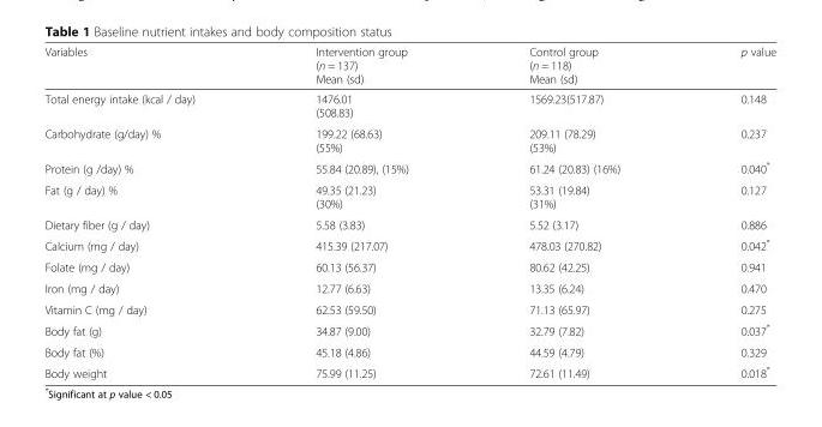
<table><thead><tr><td>Variables</td><td>Intervention group (n = 137) Mean (sd)</td><td>Control group (n = 118) Mean (sd)</td><td>p value</td></tr></thead><tbody><tr><td>Total energy intake (kcal / day)</td><td>1476.01 (508.83)</td><td>1569.23(517.87)</td><td>0.148</td></tr><tr><td>Carbohydrate (g/day) %</td><td>199.22 (68.63) (55%)</td><td>209.11 (78.29) (53%)</td><td>0.237</td></tr><tr><td>Protein (g /day) %</td><td>55.84 (20.89), (15%)</td><td>61.24 (20.83) (16%)</td><td>0.040*</td></tr><tr><td>Fat (g / day) %</td><td>49.35 (21.23) (30%)</td><td>53.31 (19.84) (31%)</td><td>0.127</td></tr><tr><td>Dietary fiber (g / day)</td><td>5.58 (3.83)</td><td>5.52 (3.17)</td><td>0.886</td></tr><tr><td>Calcium (mg / day)</td><td>415.39 (217.07)</td><td>478.03 (270.82)</td><td>0.042*</td></tr><tr><td>Folate (mg / day)</td><td>60.13 (56.37)</td><td>80.62 (42.25)</td><td>0.941</td></tr><tr><td>Iron (mg / day)</td><td>12.77 (6.63)</td><td>13.35 (6.24)</td><td>0.470</td></tr><tr><td>Vitamin C (mg / day)</td><td>62.53 (59.50)</td><td>71.13 (65.97)</td><td>0.275</td></tr><tr><td>Body fat (g)</td><td>34.87 (9.00)</td><td>32.79 (7.82)</td><td>0.037*</td></tr><tr><td>Body fat (%)</td><td>45.18 (4.86)</td><td>44.59 (4.79)</td><td>0.329</td></tr><tr><td>Body weight</td><td>75.99 (11.25)</td><td>72.61 (11.49)</td><td>0.018*</td></tr></tbody></table>